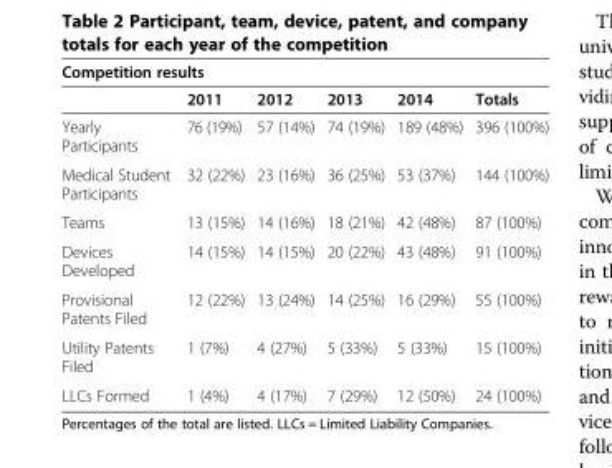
<table><thead><tr><td colspan="6">Competition results</td></tr><tr><td></td><td>2011</td><td>2012</td><td>2013</td><td>2014</td><td>Totals</td></tr></thead><tbody><tr><td>Yearly Participants</td><td>76 (19%)</td><td>57 (14%)</td><td>74 (19%)</td><td>189 (48%)</td><td>396 (100%)</td></tr><tr><td>Medical Student Participants</td><td>32 (22%)</td><td>23 (16%)</td><td>36 (25%)</td><td>53 (37%)</td><td>144 (100%)</td></tr><tr><td>Teams</td><td>13 (15%)</td><td>14 (16%)</td><td>18 (21%)</td><td>42 (48%)</td><td>87 (100%)</td></tr><tr><td>Devices Developed</td><td>14 (15%)</td><td>14 (15%)</td><td>20 (22%)</td><td>43 (48%)</td><td>91 (100%)</td></tr><tr><td>Provisional Patents Filed</td><td>12 (22%)</td><td>13 (24%)</td><td>14 (25%)</td><td>16 (29%)</td><td>55 (100%)</td></tr><tr><td>Utility Patents Filed</td><td>1 (7%)</td><td>4 (27%)</td><td>5 (33%)</td><td>5 (33%)</td><td>15 (100%)</td></tr><tr><td>LLCs Formed</td><td>1 (4%)</td><td>4 (17%)</td><td>7 (29%)</td><td>12 (50%)</td><td>24 (100%)</td></tr></tbody></table>